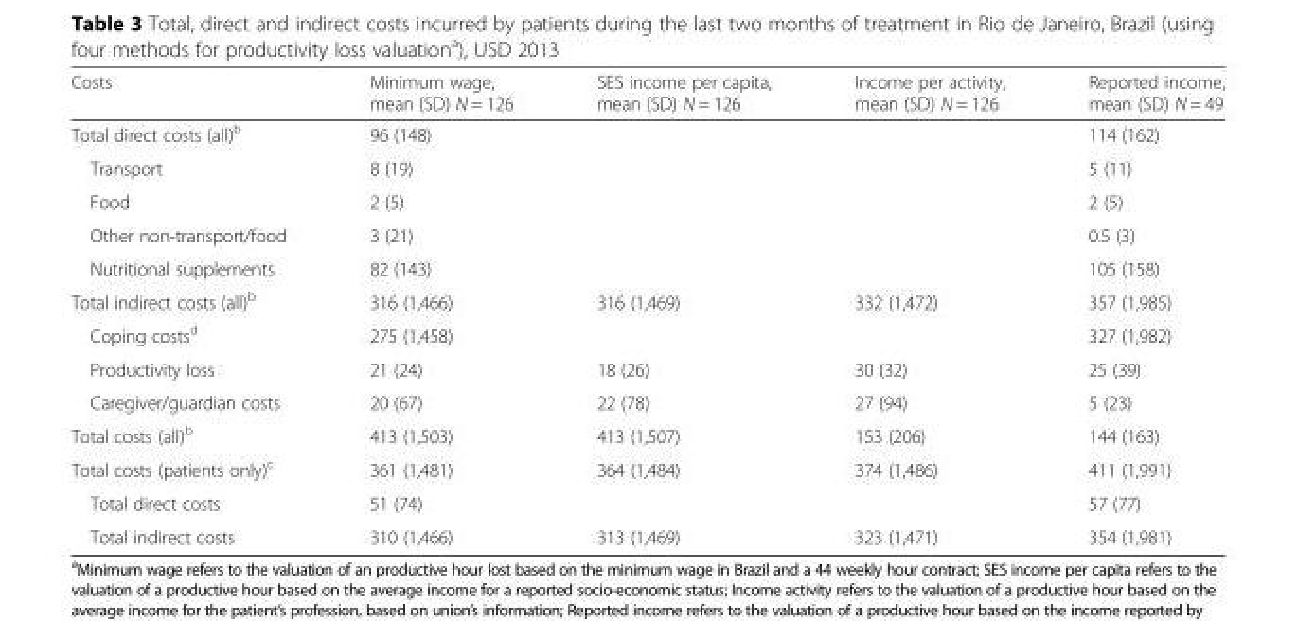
<table><thead><tr><td>Costs</td><td>Minimum wage, mean (SD) N = 126</td><td>SES income per capita, mean (SD) N = 126</td><td>Income per activity, mean (SD) N = 126</td><td>Reported income, mean (SD) N = 49</td></tr></thead><tbody><tr><td>Total direct costs (all)<sup>b</sup></td><td colspan="3">96 (148)</td><td>114 (162)</td></tr><tr><td>Transport</td><td colspan="3">8 (19)</td><td>5 (11)</td></tr><tr><td>Food</td><td colspan="3">2 (5)</td><td>2 (5)</td></tr><tr><td>Other non-transport/food</td><td colspan="3">3 (21)</td><td>0.5 (3)</td></tr><tr><td>Nutritional supplements</td><td colspan="3">82 (143)</td><td>105 (158)</td></tr><tr><td>Total indirect costs (all)<sup>b</sup></td><td>316 (1,466)</td><td>316 (1,469)</td><td>332 (1,472)</td><td>357 (1,985)</td></tr><tr><td>Coping costs<sup>d</sup></td><td colspan="3">275 (1,458)</td><td>327 (1,982)</td></tr><tr><td>Productivity loss</td><td>21 (24)</td><td>18 (26)</td><td>30 (32)</td><td>25 (39)</td></tr><tr><td>Caregiver/guardian costs</td><td>20 (67)</td><td>22 (78)</td><td>27 (94)</td><td>5 (23)</td></tr><tr><td>Total costs (all)<sup>b</sup></td><td>413 (1,503)</td><td>413 (1,507)</td><td>153 (206)</td><td>144 (163)</td></tr><tr><td>Total costs (patients only)<sup>c</sup></td><td>361 (1,481)</td><td>364 (1,484)</td><td>374 (1,486)</td><td>411 (1,991)</td></tr><tr><td>Total direct costs</td><td colspan="3">51 (74)</td><td>57 (77)</td></tr><tr><td>Total indirect costs</td><td>310 (1,466)</td><td>313 (1,469)</td><td>323 (1,471)</td><td>354 (1,981)</td></tr></tbody></table>